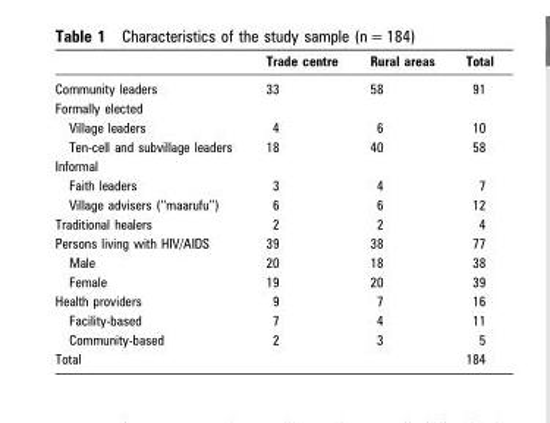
<table><thead><tr><td></td><td>Trade centre</td><td>Rural areas</td><td>Total</td></tr></thead><tbody><tr><td>Community leaders</td><td>33</td><td>58</td><td>91</td></tr><tr><td colspan="4">Formally elected</td></tr><tr><td>Village leaders</td><td>4</td><td>6</td><td>10</td></tr><tr><td>Ten-cell and subvillage leaders</td><td>18</td><td>40</td><td>58</td></tr><tr><td colspan="4">Informal</td></tr><tr><td>Faith leaders</td><td>3</td><td>4</td><td>7</td></tr><tr><td>Village advisers (‘‘maarufu’’)</td><td>6</td><td>6</td><td>12</td></tr><tr><td>Traditional healers</td><td>2</td><td>2</td><td>4</td></tr><tr><td>Persons living with HIV/AIDS</td><td>39</td><td>38</td><td>77</td></tr><tr><td>Male</td><td>20</td><td>18</td><td>38</td></tr><tr><td>Female</td><td>19</td><td>20</td><td>39</td></tr><tr><td>Health providers</td><td>9</td><td>7</td><td>16</td></tr><tr><td>Facility-based</td><td>7</td><td>4</td><td>11</td></tr><tr><td>Community-based</td><td>2</td><td>3</td><td>5</td></tr><tr><td>Total</td><td></td><td></td><td>184</td></tr></tbody></table>